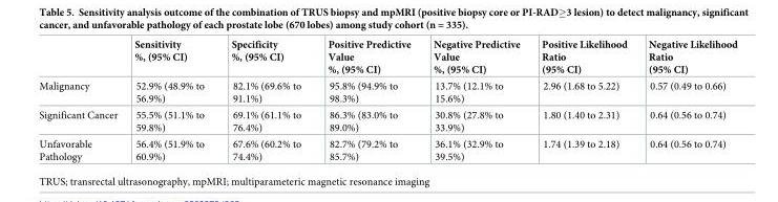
<table><thead><tr><td></td><td>Sensitivity %, (95% CI)</td><td>Specificity %, (95% CI)</td><td>Positive Predictive Value %, (95% CI)</td><td>Negative Predictive Value %, (95% CI)</td><td>Positive Likelihood Ratio (95% CI)</td><td>Negative Likelihood Ratio (95% CI)</td></tr></thead><tbody><tr><td>Malignancy</td><td>52.9% (48.9% to 56.9%)</td><td>82.1% (69.6% to 91.1%)</td><td>95.8% (94.9% to 98.3%)</td><td>13.7% (12.1% to 15.6%)</td><td>2.96 (1.68 to 5.22)</td><td>0.57 (0.49 to 0.66)</td></tr><tr><td>Significant Cancer</td><td>55.5% (51.1% to 59.8%)</td><td>69.1% (61.1% to 76.4%)</td><td>86.3% (83.0% to 89.0%)</td><td>30.8% (27.8% to 33.9%)</td><td>1.80 (1.40 to 2.31)</td><td>0.64 (0.56 to 0.74)</td></tr><tr><td>Unfavorable Pathology</td><td>56.4% (51.9% to 60.9%)</td><td>67.6% (60.2% to 74.4%)</td><td>82.7% (79.2% to 85.7%)</td><td>36.1% (32.9% to 39.5%)</td><td>1.74 (1.39 to 2.18)</td><td>0.64 (0.56 to 0.74)</td></tr></tbody></table>